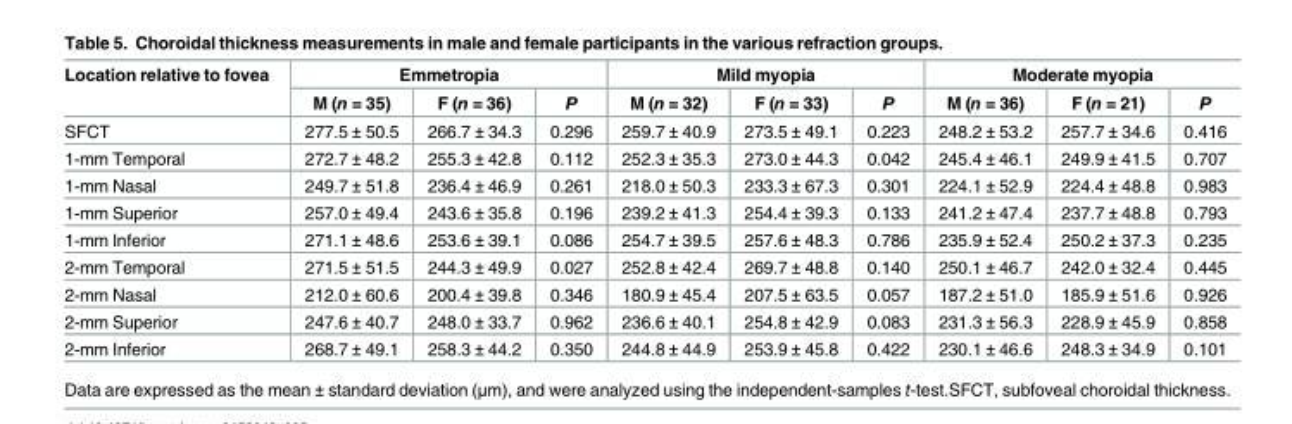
<table><thead><tr><td rowspan="2">Location relative to fovea</td><td colspan="3">Emmetropia</td><td colspan="3">Mild myopia</td><td colspan="3">Moderate myopia</td></tr><tr><td>M (n = 35)</td><td>F (n = 36)</td><td>P</td><td>M (n = 32)</td><td>F (n = 33)</td><td>P</td><td>M (n = 36)</td><td>F (n = 21)</td><td>P</td></tr></thead><tbody><tr><td>SFCT</td><td>277.5 ± 50.5</td><td>266.7 ± 34.3</td><td>0.296</td><td>259.7 ± 40.9</td><td>273.5 ± 49.1</td><td>0.223</td><td>248.2 ± 53.2</td><td>257.7 ± 34.6</td><td>0.416</td></tr><tr><td>1-mm Temporal</td><td>272.7 ± 48.2</td><td>255.3 ± 42.8</td><td>0.112</td><td>252.3 ± 35.3</td><td>273.0 ± 44.3</td><td>0.042</td><td>245.4 ± 46.1</td><td>249.9 ± 41.5</td><td>0.707</td></tr><tr><td>1-mm Nasal</td><td>249.7 ± 51.8</td><td>236.4 ± 46.9</td><td>0.261</td><td>218.0 ± 50.3</td><td>233.3 ± 67.3</td><td>0.301</td><td>224.1 ± 52.9</td><td>224.4 ± 48.8</td><td>0.983</td></tr><tr><td>1-mm Superior</td><td>257.0 ± 49.4</td><td>243.6 ± 35.8</td><td>0.196</td><td>239.2 ± 41.3</td><td>254.4 ± 39.3</td><td>0.133</td><td>241.2 ± 47.4</td><td>237.7 ± 48.8</td><td>0.793</td></tr><tr><td>1-mm Inferior</td><td>271.1 ± 48.6</td><td>253.6 ± 39.1</td><td>0.086</td><td>254.7 ± 39.5</td><td>257.6 ± 48.3</td><td>0.786</td><td>235.9 ± 52.4</td><td>250.2 ± 37.3</td><td>0.235</td></tr><tr><td>2-mm Temporal</td><td>271.5 ± 51.5</td><td>244.3 ± 49.9</td><td>0.027</td><td>252.8 ± 42.4</td><td>269.7 ± 48.8</td><td>0.140</td><td>250.1 ± 46.7</td><td>242.0 ± 32.4</td><td>0.445</td></tr><tr><td>2-mm Nasal</td><td>212.0 ± 60.6</td><td>200.4 ± 39.8</td><td>0.346</td><td>180.9 ± 45.4</td><td>207.5 ± 63.5</td><td>0.057</td><td>187.2 ± 51.0</td><td>185.9 ± 51.6</td><td>0.926</td></tr><tr><td>2-mm Superior</td><td>247.6 ± 40.7</td><td>248.0 ± 33.7</td><td>0.962</td><td>236.6 ± 40.1</td><td>254.8 ± 42.9</td><td>0.083</td><td>231.3 ± 56.3</td><td>228.9 ± 45.9</td><td>0.858</td></tr><tr><td>2-mm Inferior</td><td>268.7 ± 49.1</td><td>258.3 ± 44.2</td><td>0.350</td><td>244.8 ± 44.9</td><td>253.9 ± 45.8</td><td>0.422</td><td>230.1 ± 46.6</td><td>248.3 ± 34.9</td><td>0.101</td></tr></tbody></table>